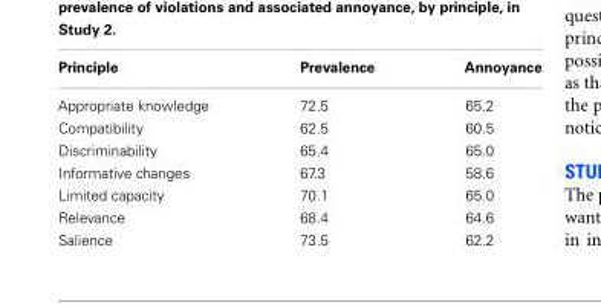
<table><thead><tr><td>Principle</td><td>Prevalence</td><td>Annoyance</td></tr></thead><tbody><tr><td>Appropriate knowledge</td><td>72.5</td><td>65.2</td></tr><tr><td>Compatibility</td><td>62.5</td><td>60.5</td></tr><tr><td>Discriminability</td><td>65.4</td><td>65.0</td></tr><tr><td>Informative changes</td><td>67.3</td><td>58.6</td></tr><tr><td>Limited capacity</td><td>70.1</td><td>65.0</td></tr><tr><td>Relevance</td><td>68.4</td><td>64.6</td></tr><tr><td>Salience</td><td>73.5</td><td>62.2</td></tr></tbody></table>